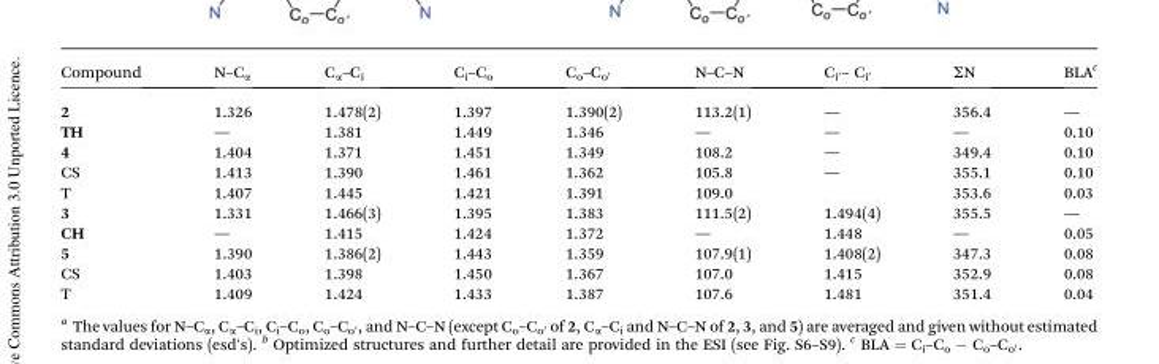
<table><thead><tr><td>Compound</td><td>N–C<sub>α</sub></td><td>C<sub>α</sub>–C<sub>i</sub></td><td>C<sub>i</sub>–C<sub>o</sub></td><td>C<sub>o</sub>–C<sub>o′</sub></td><td>N–C–N</td><td>C<sub>i′</sub>– C<sub>i′</sub></td><td>ΣN</td><td>BLA<sup>c</sup></td></tr></thead><tbody><tr><td>2</td><td>1.326</td><td>1.478(2)</td><td>1.397</td><td>1.390(2)</td><td>113.2(1)</td><td>—</td><td>356.4</td><td>—</td></tr><tr><td>TH</td><td>—</td><td>1.381</td><td>1.449</td><td>1.346</td><td>—</td><td>—</td><td>—</td><td>0.10</td></tr><tr><td>4</td><td>1.404</td><td>1.371</td><td>1.451</td><td>1.349</td><td>108.2</td><td>—</td><td>349.4</td><td>0.10</td></tr><tr><td>CS</td><td>1.413</td><td>1.390</td><td>1.461</td><td>1.362</td><td>105.8</td><td>—</td><td>355.1</td><td>0.10</td></tr><tr><td>T</td><td>1.407</td><td>1.445</td><td>1.421</td><td>1.391</td><td>109.0</td><td></td><td>353.6</td><td>0.03</td></tr><tr><td>3</td><td>1.331</td><td>1.466(3)</td><td>1.395</td><td>1.383</td><td>111.5(2)</td><td>1.494(4)</td><td>355.5</td><td>—</td></tr><tr><td>CH</td><td>—</td><td>1.415</td><td>1.424</td><td>1.372</td><td>—</td><td>1.448</td><td>—</td><td>0.05</td></tr><tr><td>5</td><td>1.390</td><td>1.386(2)</td><td>1.443</td><td>1.359</td><td>107.9(1)</td><td>1.408(2)</td><td>347.3</td><td>0.08</td></tr><tr><td>CS</td><td>1.403</td><td>1.398</td><td>1.450</td><td>1.367</td><td>107.0</td><td>1.415</td><td>352.9</td><td>0.08</td></tr><tr><td>T</td><td>1.409</td><td>1.424</td><td>1.433</td><td>1.387</td><td>107.6</td><td>1.481</td><td>351.4</td><td>0.04</td></tr></tbody></table>